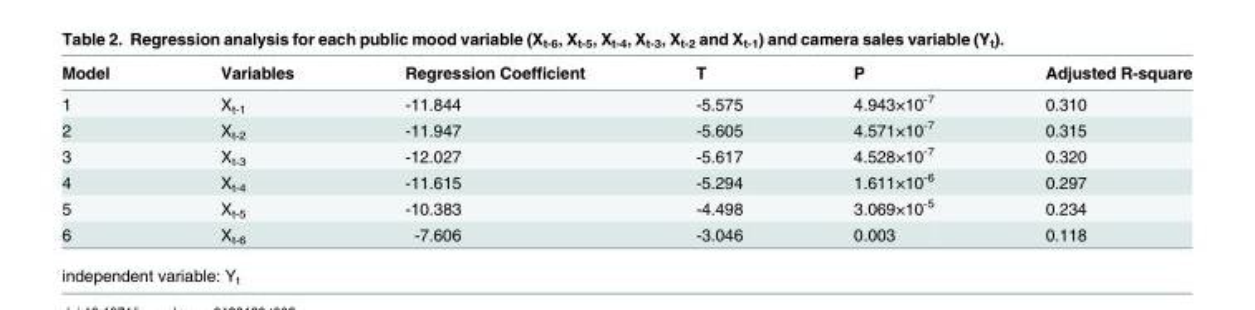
<table><thead><tr><td>Model</td><td>Variables</td><td>Regression Coefficient</td><td>T</td><td>P</td><td>Adjusted R-square</td></tr></thead><tbody><tr><td>1</td><td>X<sub>t-1</sub></td><td>-11.844</td><td>-5.575</td><td>4.943×10<sup>-7</sup></td><td>0.310</td></tr><tr><td>2</td><td>X<sub>t-2</sub></td><td>-11.947</td><td>-5.605</td><td>4.571×10<sup>-7</sup></td><td>0.315</td></tr><tr><td>3</td><td>X<sub>t-3</sub></td><td>-12.027</td><td>-5.617</td><td>4.528×10<sup>-7</sup></td><td>0.320</td></tr><tr><td>4</td><td>X<sub>t-4</sub></td><td>-11.615</td><td>-5.294</td><td>1.611×10<sup>-6</sup></td><td>0.297</td></tr><tr><td>5</td><td>X<sub>t-5</sub></td><td>-10.383</td><td>-4.498</td><td>3.069×10<sup>-5</sup></td><td>0.234</td></tr><tr><td>6</td><td>X<sub>t-6</sub></td><td>-7.606</td><td>-3.046</td><td>0.003</td><td>0.118</td></tr></tbody></table>